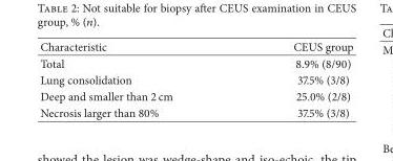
<table><thead><tr><td>Characteristic</td><td>CEUS group</td></tr></thead><tbody><tr><td>Total</td><td>8.9% (8/90)</td></tr><tr><td>Lung consolidation</td><td>37.5% (3/8)</td></tr><tr><td>Deep and smaller than 2 cm</td><td>25.0% (2/8)</td></tr><tr><td>Necrosis larger than 80%</td><td>37.5% (3/8)</td></tr></tbody></table>